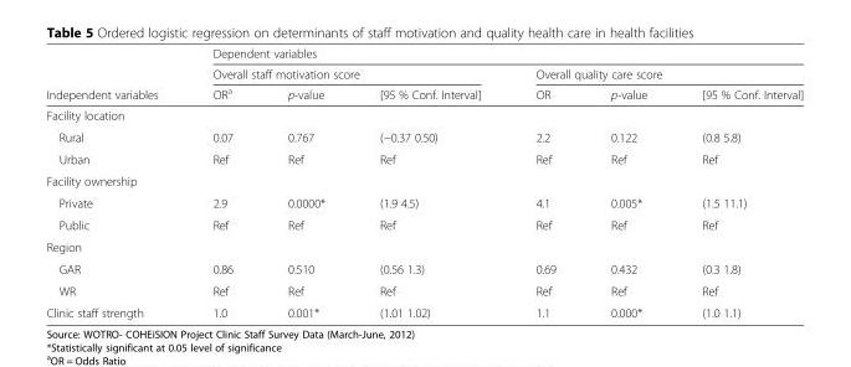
<table><thead><tr><td rowspan="3">Independent variables</td><td colspan="6">Dependent variables</td></tr><tr><td colspan="3">Overall staff motivation score</td><td colspan="3">Overall quality care score</td></tr><tr><td>OR<sup>a</sup></td><td>p-value</td><td>[95 % Conf. Interval]</td><td>OR</td><td>p-value</td><td>[95 % Conf. Interval]</td></tr></thead><tbody><tr><td colspan="7">Facility location</td></tr><tr><td>Rural</td><td>0.07</td><td>0.767</td><td>(−0.37 0.50)</td><td>2.2</td><td>0.122</td><td>(0.8 5.8)</td></tr><tr><td>Urban</td><td>Ref</td><td>Ref</td><td>Ref</td><td>Ref</td><td>Ref</td><td>Ref</td></tr><tr><td colspan="7">Facility ownership</td></tr><tr><td>Private</td><td>2.9</td><td>0.0000*</td><td>(1.9 4.5)</td><td>4.1</td><td>0.005*</td><td>(1.5 11.1)</td></tr><tr><td>Public</td><td>Ref</td><td>Ref</td><td>Ref</td><td>Ref</td><td>Ref</td><td>Ref</td></tr><tr><td colspan="7">Region</td></tr><tr><td>GAR</td><td>0.86</td><td>0.510</td><td>(0.56 1.3)</td><td>0.69</td><td>0.432</td><td>(0.3 1.8)</td></tr><tr><td>WR</td><td>Ref</td><td>Ref</td><td>Ref</td><td>Ref</td><td>Ref</td><td>Ref</td></tr><tr><td>Clinic staff strength</td><td>1.0</td><td>0.001*</td><td>(1.01 1.02)</td><td>1.1</td><td>0.000*</td><td>(1.0 1.1)</td></tr></tbody></table>